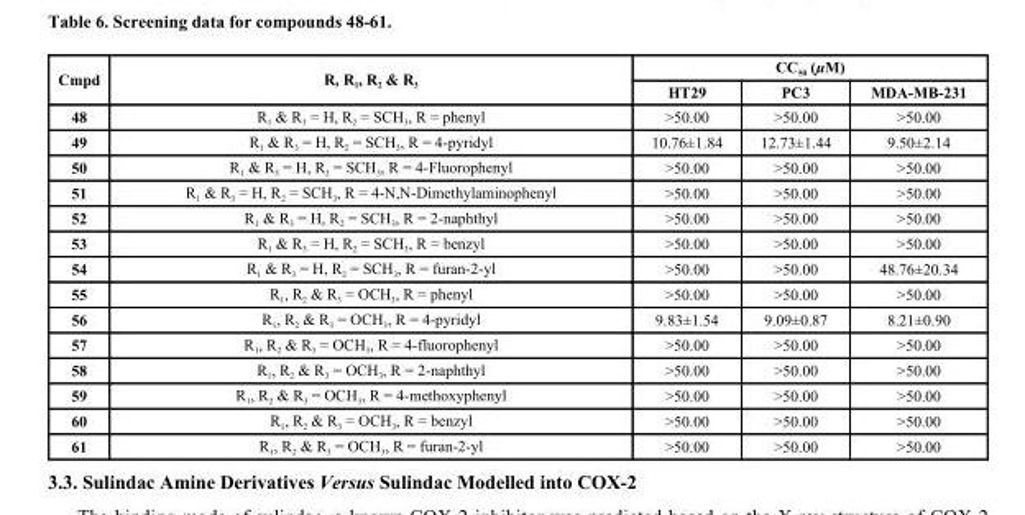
<table><thead><tr><td rowspan="2">Cmpd</td><td rowspan="2">R, R<sub>1</sub>, R<sub>2</sub> &amp; R<sub>3</sub></td><td colspan="3">CC<sub>50</sub> (µM)</td></tr><tr><td>HT29</td><td>PC3</td><td>MDA-MB-231</td></tr></thead><tbody><tr><td>48</td><td>R<sub>1</sub> &amp; R<sub>3</sub> = H, R<sub>2</sub> = SCH<sub>3</sub>, R = phenyl</td><td>&gt;50.00</td><td>&gt;50.00</td><td>&gt;50.00</td></tr><tr><td>49</td><td>R<sub>1</sub> &amp; R<sub>3</sub> = H, R<sub>2</sub> = SCH<sub>3</sub>, R = 4-pyridyl</td><td>10.76±1.84</td><td>12.73±1.44</td><td>9.50±2.14</td></tr><tr><td>50</td><td>R<sub>1</sub> &amp; R<sub>3</sub> = H, R<sub>2</sub> = SCH<sub>3</sub>, R = 4-Fluorophenyl</td><td>&gt;50.00</td><td>&gt;50.00</td><td>&gt;50.00</td></tr><tr><td>51</td><td>R<sub>1</sub> &amp; R<sub>3</sub> = H, R<sub>2</sub> = SCH<sub>3</sub>, R = 4-N,N-Dimethylaminophenyl</td><td>&gt;50.00</td><td>&gt;50.00</td><td>&gt;50.00</td></tr><tr><td>52</td><td>R<sub>1</sub> &amp; R<sub>3</sub> = H, R<sub>2</sub> = SCH<sub>3</sub>, R = 2-naphthyl</td><td>&gt;50.00</td><td>&gt;50.00</td><td>&gt;50.00</td></tr><tr><td>53</td><td>R<sub>1</sub> &amp; R<sub>3</sub> = H, R<sub>2</sub> = SCH<sub>3</sub>, R = benzyl</td><td>&gt;50.00</td><td>&gt;50.00</td><td>&gt;50.00</td></tr><tr><td>54</td><td>R<sub>1</sub> &amp; R<sub>3</sub> = H, R<sub>2</sub> = SCH<sub>3</sub>, R = furan-2-yl</td><td>&gt;50.00</td><td>&gt;50.00</td><td>48.76±20.34</td></tr><tr><td>55</td><td>R<sub>1</sub>, R<sub>2</sub> &amp; R<sub>3</sub> = OCH<sub>3</sub>, R = phenyl</td><td>&gt;50.00</td><td>&gt;50.00</td><td>&gt;50.00</td></tr><tr><td>56</td><td>R<sub>1</sub>, R<sub>2</sub> &amp; R<sub>3</sub> = OCH<sub>3</sub>, R = 4-pyridyl</td><td>9.83±1.54</td><td>9.09±0.87</td><td>8.21±0.90</td></tr><tr><td>57</td><td>R<sub>1</sub>, R<sub>2</sub> &amp; R<sub>3</sub> = OCH<sub>3</sub>, R = 4-fluorophenyl</td><td>&gt;50.00</td><td>&gt;50.00</td><td>&gt;50.00</td></tr><tr><td>58</td><td>R<sub>1</sub>, R<sub>2</sub> &amp; R<sub>3</sub> = OCH<sub>3</sub>, R = 2-naphthyl</td><td>&gt;50.00</td><td>&gt;50.00</td><td>&gt;50.00</td></tr><tr><td>59</td><td>R<sub>1</sub>, R<sub>2</sub> &amp; R<sub>3</sub> = OCH<sub>3</sub>, R = 4-methoxyphenyl</td><td>&gt;50.00</td><td>&gt;50.00</td><td>&gt;50.00</td></tr><tr><td>60</td><td>R<sub>1</sub>, R<sub>2</sub> &amp; R<sub>3</sub> = OCH<sub>3</sub>, R = benzyl</td><td>&gt;50.00</td><td>&gt;50.00</td><td>&gt;50.00</td></tr><tr><td>61</td><td>R<sub>1</sub>, R<sub>2</sub> &amp; R<sub>3</sub> = OCH<sub>3</sub>, R = furan-2-yl</td><td>&gt;50.00</td><td>&gt;50.00</td><td>&gt;50.00</td></tr></tbody></table>